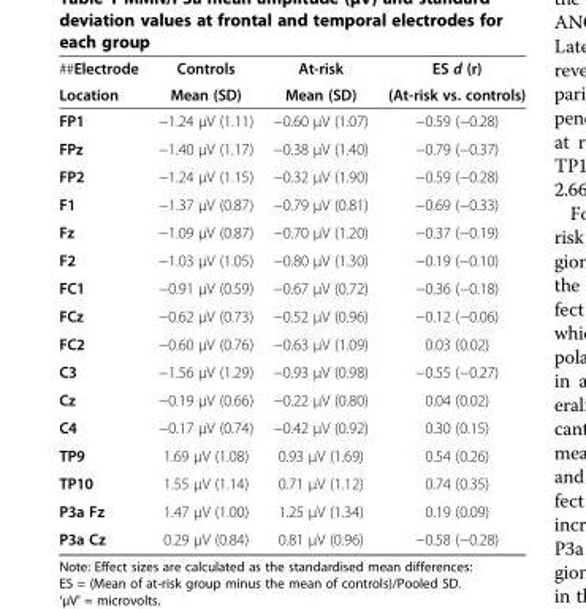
<table><thead><tr><td rowspan="2">##Electrode Location</td><td rowspan="2">Controls Mean (SD)</td><td rowspan="2">At-risk Mean (SD)</td><td rowspan="2">ES d (r) (At-risk vs. controls)</td></tr><tr></tr></thead><tbody><tr><td>FP1</td><td>−1.24 μV (1.11)</td><td>−0.60 μV (1.07)</td><td>−0.59 (−0.28)</td></tr><tr><td>FPz</td><td>−1.40 μV (1.17)</td><td>−0.38 μV (1.40)</td><td>−0.79 (−0.37)</td></tr><tr><td>FP2</td><td>−1.24 μV (1.15)</td><td>−0.32 μV (1.90)</td><td>−0.59 (−0.28)</td></tr><tr><td>F1</td><td>−1.37 μV (0.87)</td><td>−0.79 μV (0.81)</td><td>−0.69 (−0.33)</td></tr><tr><td>Fz</td><td>−1.09 μV (0.87)</td><td>−0.70 μV (1.20)</td><td>−0.37 (−0.19)</td></tr><tr><td>F2</td><td>−1.03 μV (1.05)</td><td>−0.80 μV (1.30)</td><td>−0.19 (−0.10)</td></tr><tr><td>FC1</td><td>−0.91 μV (0.59)</td><td>−0.67 μV (0.72)</td><td>−0.36 (−0.18)</td></tr><tr><td>FCz</td><td>−0.62 μV (0.73)</td><td>−0.52 μV (0.96)</td><td>−0.12 (−0.06)</td></tr><tr><td>FC2</td><td>−0.60 μV (0.76)</td><td>−0.63 μV (1.09)</td><td>0.03 (0.02)</td></tr><tr><td>C3</td><td>−1.56 μV (1.29)</td><td>−0.93 μV (0.98)</td><td>−0.55 (−0.27)</td></tr><tr><td>Cz</td><td>−0.19 μV (0.66)</td><td>−0.22 μV (0.80)</td><td>0.04 (0.02)</td></tr><tr><td>C4</td><td>−0.17 μV (0.74)</td><td>−0.42 μV (0.92)</td><td>0.30 (0.15)</td></tr><tr><td>TP9</td><td>1.69 μV (1.08)</td><td>0.93 μV (1.69)</td><td>0.54 (0.26)</td></tr><tr><td>TP10</td><td>1.55 μV (1.14)</td><td>0.71 μV (1.12)</td><td>0.74 (0.35)</td></tr><tr><td>P3a Fz</td><td>1.47 μV (1.00)</td><td>1.25 μV (1.34)</td><td>0.19 (0.09)</td></tr><tr><td>P3a Cz</td><td>0.29 μV (0.84)</td><td>0.81 μV (0.96)</td><td>−0.58 (−0.28)</td></tr></tbody></table>